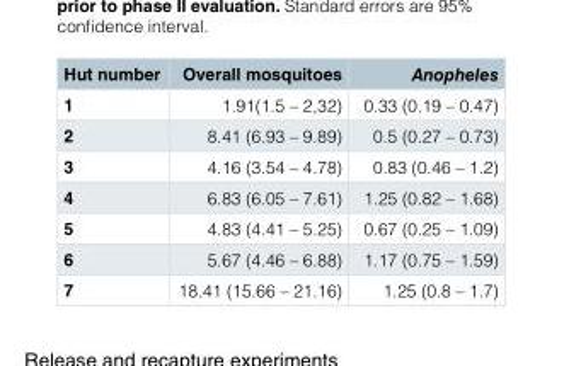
<table><thead><tr><td>Hut number</td><td>Overall mosquitoes</td><td>Anopheles</td></tr></thead><tbody><tr><td>1</td><td>1.91(1.5 – 2,32)</td><td>0.33 (0.19 – 0.47)</td></tr><tr><td>2</td><td>8.41 (6.93 – 9.89)</td><td>0.5 (0.27 – 0.73)</td></tr><tr><td>3</td><td>4.16 (3.54 – 4.78)</td><td>0.83 (0.46 – 1.2)</td></tr><tr><td>4</td><td>6.83 (6.05 – 7.61)</td><td>1.25 (0.82 – 1.68)</td></tr><tr><td>5</td><td>4.83 (4.41 – 5.25)</td><td>0.67 (0.25 – 1.09)</td></tr><tr><td>6</td><td>5.67 (4.46 – 6.88)</td><td>1.17 (0.75 – 1.59)</td></tr><tr><td>7</td><td>18.41 (15.66 – 21.16)</td><td>1.25 (0.8 – 1.7)</td></tr></tbody></table>